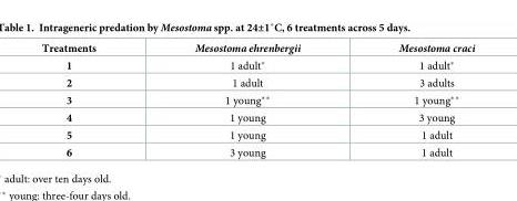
<table><thead><tr><td>Treatments</td><td>Mesostoma ehrenbergii</td><td>Mesostoma craci</td></tr></thead><tbody><tr><td>1</td><td>1 adult*</td><td>1 adult*</td></tr><tr><td>2</td><td>1 adult</td><td>3 adults</td></tr><tr><td>3</td><td>1 young**</td><td>1 young**</td></tr><tr><td>4</td><td>1 young</td><td>3 young</td></tr><tr><td>5</td><td>1 young</td><td>1 adult</td></tr><tr><td>6</td><td>3 young</td><td>1 adult</td></tr></tbody></table>